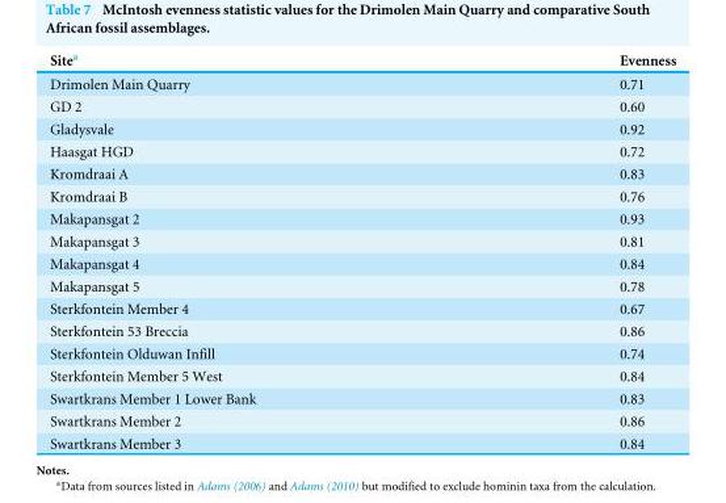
<table><thead><tr><td>Site<sup>a</sup></td><td>Evenness</td></tr></thead><tbody><tr><td>Drimolen Main Quarry</td><td>0.71</td></tr><tr><td>GD 2</td><td>0.60</td></tr><tr><td>Gladysvale</td><td>0.92</td></tr><tr><td>Haasgat HGD</td><td>0.72</td></tr><tr><td>Kromdraai A</td><td>0.83</td></tr><tr><td>Kromdraai B</td><td>0.76</td></tr><tr><td>Makapansgat 2</td><td>0.93</td></tr><tr><td>Makapansgat 3</td><td>0.81</td></tr><tr><td>Makapansgat 4</td><td>0.84</td></tr><tr><td>Makapansgat 5</td><td>0.78</td></tr><tr><td>Sterkfontein Member 4</td><td>0.67</td></tr><tr><td>Sterkfontein 53 Breccia</td><td>0.86</td></tr><tr><td>Sterkfontein Olduwan Infill</td><td>0.74</td></tr><tr><td>Sterkfontein Member 5 West</td><td>0.84</td></tr><tr><td>Swartkrans Member 1 Lower Bank</td><td>0.83</td></tr><tr><td>Swartkrans Member 2</td><td>0.86</td></tr><tr><td>Swartkrans Member 3</td><td>0.84</td></tr></tbody></table>